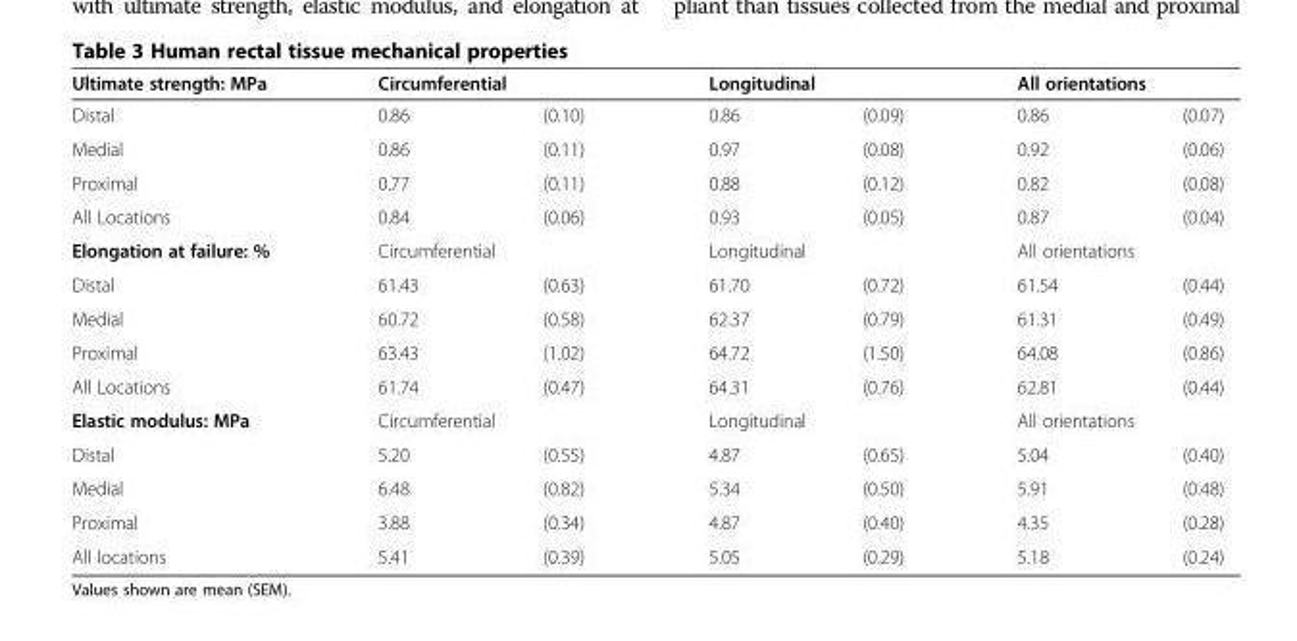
<table><thead><tr><td rowspan="2">Ultimate strength: MPa Distal</td><td colspan="2">Circumferential</td><td colspan="2">Longitudinal</td><td colspan="2">All orientations</td></tr><tr><td>0.86</td><td>(0.10)</td><td>0.86</td><td>(0.09)</td><td>0.86</td><td>(0.07)</td></tr></thead><tbody><tr><td>Medial</td><td>0.86</td><td>(0.11)</td><td>0.97</td><td>(0.08)</td><td>0.92</td><td>(0.06)</td></tr><tr><td>Proximal</td><td>0.77</td><td>(0.11)</td><td>0.88</td><td>(0.12)</td><td>0.82</td><td>(0.08)</td></tr><tr><td>All Locations</td><td>0.84</td><td>(0.06)</td><td>0.93</td><td>(0.05)</td><td>0.87</td><td>(0.04)</td></tr><tr><td>Elongation at failure: %</td><td colspan="2">Circumferential</td><td colspan="2">Longitudinal</td><td colspan="2">All orientations</td></tr><tr><td>Distal</td><td>61.43</td><td>(0.63)</td><td>61.70</td><td>(0.72)</td><td>61.54</td><td>(0.44)</td></tr><tr><td>Medial</td><td>60.72</td><td>(0.58)</td><td>62.37</td><td>(0.79)</td><td>61.31</td><td>(0.49)</td></tr><tr><td>Proximal</td><td>63.43</td><td>(1.02)</td><td>64.72</td><td>(1.50)</td><td>64.08</td><td>(0.86)</td></tr><tr><td>All Locations</td><td>61.74</td><td>(0.47)</td><td>64.31</td><td>(0.76)</td><td>62.81</td><td>(0.44)</td></tr><tr><td>Elastic modulus: MPa</td><td colspan="2">Circumferential</td><td colspan="2">Longitudinal</td><td colspan="2">All orientations</td></tr><tr><td>Distal</td><td>5.20</td><td>(0.55)</td><td>4.87</td><td>(0.65)</td><td>5.04</td><td>(0.40)</td></tr><tr><td>Medial</td><td>6.48</td><td>(0.82)</td><td>5.34</td><td>(0.50)</td><td>5.91</td><td>(0.48)</td></tr><tr><td>Proximal</td><td>3.88</td><td>(0.34)</td><td>4.87</td><td>(0.40)</td><td>4.35</td><td>(0.28)</td></tr><tr><td>All locations</td><td>5.41</td><td>(0.39)</td><td>5.05</td><td>(0.29)</td><td>5.18</td><td>(0.24)</td></tr></tbody></table>